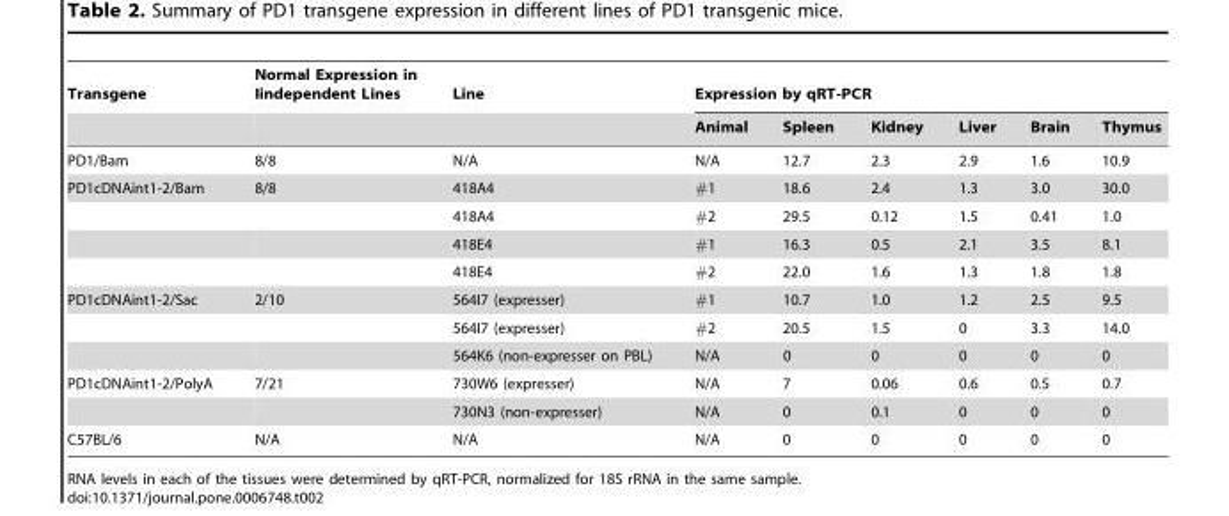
<table><thead><tr><td rowspan="2">Transgene</td><td rowspan="2">Normal Expression in Iindependent Lines</td><td rowspan="2">Line</td><td colspan="6">Expression by qRT-PCR</td></tr><tr><td>Animal</td><td>Spleen</td><td>Kidney</td><td>Liver</td><td>Brain</td><td>Thymus</td></tr></thead><tbody><tr><td>PD1/Bam</td><td>8/8</td><td>N/A</td><td>N/A</td><td>12.7</td><td>2.3</td><td>2.9</td><td>1.6</td><td>10.9</td></tr><tr><td rowspan="4">PD1cDNAint1-2/Bam</td><td>8/8</td><td>418A4</td><td>#1</td><td>18.6</td><td>2.4</td><td>1.3</td><td>3.0</td><td>30.0</td></tr><tr><td></td><td>418A4</td><td>#2</td><td>29.5</td><td>0.12</td><td>1.5</td><td>0.41</td><td>1.0</td></tr><tr><td></td><td>418E4</td><td>#1</td><td>16.3</td><td>0.5</td><td>2.1</td><td>3.5</td><td>8.1</td></tr><tr><td></td><td>418E4</td><td>#2</td><td>22.0</td><td>1.6</td><td>1.3</td><td>1.8</td><td>1.8</td></tr><tr><td rowspan="3">PD1cDNAint1-2/Sac</td><td>2/10</td><td>564I7 (expresser)</td><td>#1</td><td>10.7</td><td>1.0</td><td>1.2</td><td>2.5</td><td>9.5</td></tr><tr><td></td><td>564I7 (expresser)</td><td>#2</td><td>20.5</td><td>1.5</td><td>0</td><td>3.3</td><td>14.0</td></tr><tr><td></td><td>564K6 (non-expresser on PBL)</td><td>N/A</td><td>0</td><td>0</td><td>0</td><td>0</td><td>0</td></tr><tr><td rowspan="2">PD1cDNAint1-2/PolyA</td><td>7/21</td><td>730W6 (expresser)</td><td>N/A</td><td>7</td><td>0.06</td><td>0.6</td><td>0.5</td><td>0.7</td></tr><tr><td></td><td>730N3 (non-expresser)</td><td>N/A</td><td>0</td><td>0.1</td><td>0</td><td>0</td><td>0</td></tr><tr><td>C57BL/6</td><td>N/A</td><td>N/A</td><td>N/A</td><td>0</td><td>0</td><td>0</td><td>0</td><td>0</td></tr></tbody></table>